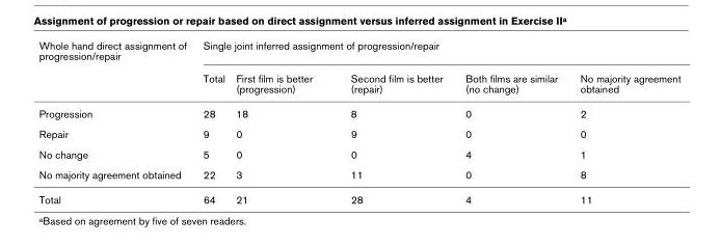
<table><thead><tr><td rowspan="2">Whole hand direct assignment of progression/repair</td><td colspan="5">Single joint inferred assignment of progression/repair</td></tr><tr><td>Total</td><td>First film is better (progression)</td><td>Second film is better (repair)</td><td>Both films are similar (no change)</td><td>No majority agreement obtained</td></tr></thead><tbody><tr><td>Progression</td><td>28</td><td>18</td><td>8</td><td>0</td><td>2</td></tr><tr><td>Repair</td><td>9</td><td>0</td><td>9</td><td>0</td><td>0</td></tr><tr><td>No change</td><td>5</td><td>0</td><td>0</td><td>4</td><td>1</td></tr><tr><td>No majority agreement obtained</td><td>22</td><td>3</td><td>11</td><td>0</td><td>8</td></tr><tr><td>Total</td><td>64</td><td>21</td><td>28</td><td>4</td><td>11</td></tr></tbody></table>